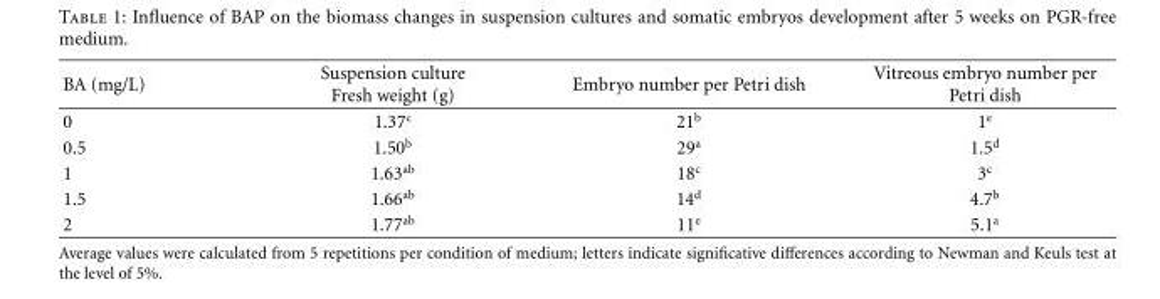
<table><thead><tr><td>BA (mg/L)</td><td>Suspension culture Fresh weight (g)</td><td>Embryo number per Petri dish</td><td>Vitreous embryo number per Petri dish</td></tr></thead><tbody><tr><td>0</td><td>1.37<sup>c</sup></td><td>21<sup>b</sup></td><td>1<sup>e</sup></td></tr><tr><td>0.5</td><td>1.50<sup>b</sup></td><td>29<sup>a</sup></td><td>1.5<sup>d</sup></td></tr><tr><td>1</td><td>1.63<sup>ab</sup></td><td>18<sup>c</sup></td><td>3<sup>c</sup></td></tr><tr><td>1.5</td><td>1.66<sup>ab</sup></td><td>14<sup>d</sup></td><td>4.7<sup>b</sup></td></tr><tr><td>2</td><td>1.77<sup>ab</sup></td><td>11<sup>e</sup></td><td>5.1<sup>a</sup></td></tr></tbody></table>